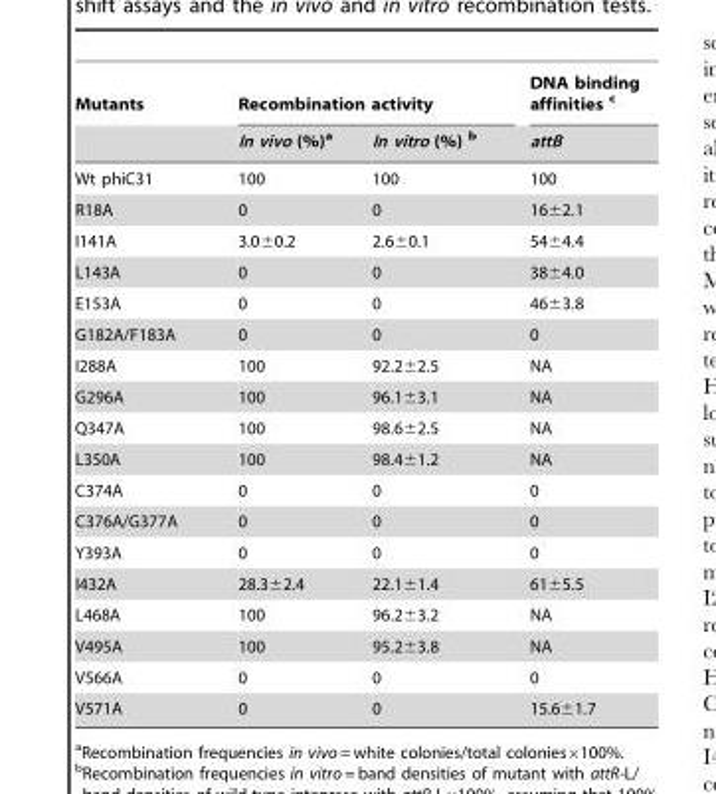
<table><thead><tr><td rowspan="2">Mutants</td><td colspan="2">Recombination activity</td><td rowspan="2">DNA binding affinities c attB</td></tr><tr><td>In vivo (%)<sup>a</sup></td><td>In vitro (%) b</td></tr></thead><tbody><tr><td>Wt phiC31</td><td>100</td><td>100</td><td>100</td></tr><tr><td>R18A</td><td>0</td><td>0</td><td>16±2.1</td></tr><tr><td>I141A</td><td>3.0±0.2</td><td>2.6±0.1</td><td>54±4.4</td></tr><tr><td>L143A</td><td>0</td><td>0</td><td>38±4.0</td></tr><tr><td>E153A</td><td>0</td><td>0</td><td>46±3.8</td></tr><tr><td>G182A/F183A</td><td>0</td><td>0</td><td>0</td></tr><tr><td>I288A</td><td>100</td><td>92.2±2.5</td><td>NA</td></tr><tr><td>G296A</td><td>100</td><td>96.1±3.1</td><td>NA</td></tr><tr><td>Q347A</td><td>100</td><td>98.6±2.5</td><td>NA</td></tr><tr><td>L350A</td><td>100</td><td>98.4±1.2</td><td>NA</td></tr><tr><td>C374A</td><td>0</td><td>0</td><td>0</td></tr><tr><td>C376A/G377A</td><td>0</td><td>0</td><td>0</td></tr><tr><td>Y393A</td><td>0</td><td>0</td><td>0</td></tr><tr><td>I432A</td><td>28.3±2.4</td><td>22.1±1.4</td><td>61±5.5</td></tr><tr><td>L468A</td><td>100</td><td>96.2±3.2</td><td>NA</td></tr><tr><td>V495A</td><td>100</td><td>95.2±3.8</td><td>NA</td></tr><tr><td>V566A</td><td>0</td><td>0</td><td>0</td></tr><tr><td>V571A</td><td>0</td><td>0</td><td>15.6±1.7</td></tr></tbody></table>